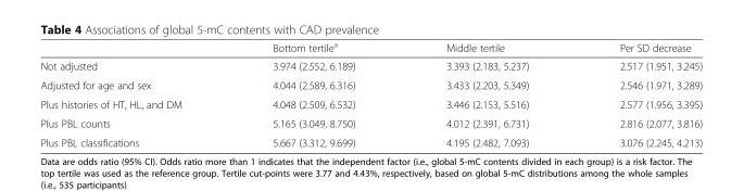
<table><thead><tr><td></td><td>Bottom tertile<sup>a</sup></td><td>Middle tertile</td><td>Per SD decrease</td></tr></thead><tbody><tr><td>Not adjusted</td><td>3.974 (2.552, 6.189)</td><td>3.393 (2.183, 5.237)</td><td>2.517 (1.951, 3.245)</td></tr><tr><td>Adjusted for age and sex</td><td>4.044 (2.589, 6.316)</td><td>3.433 (2.203, 5.349)</td><td>2.546 (1.971, 3.289)</td></tr><tr><td>Plus histories of HT, HL, and DM</td><td>4.048 (2.509, 6.532)</td><td>3.446 (2.153, 5.516)</td><td>2.577 (1.956, 3.395)</td></tr><tr><td>Plus PBL counts</td><td>5.165 (3.049, 8.750)</td><td>4.012 (2.391, 6.731)</td><td>2.816 (2.077, 3.816)</td></tr><tr><td>Plus PBL classifications</td><td>5.667 (3.312, 9.699)</td><td>4.195 (2.482, 7.093)</td><td>3.076 (2.245, 4.213)</td></tr></tbody></table>